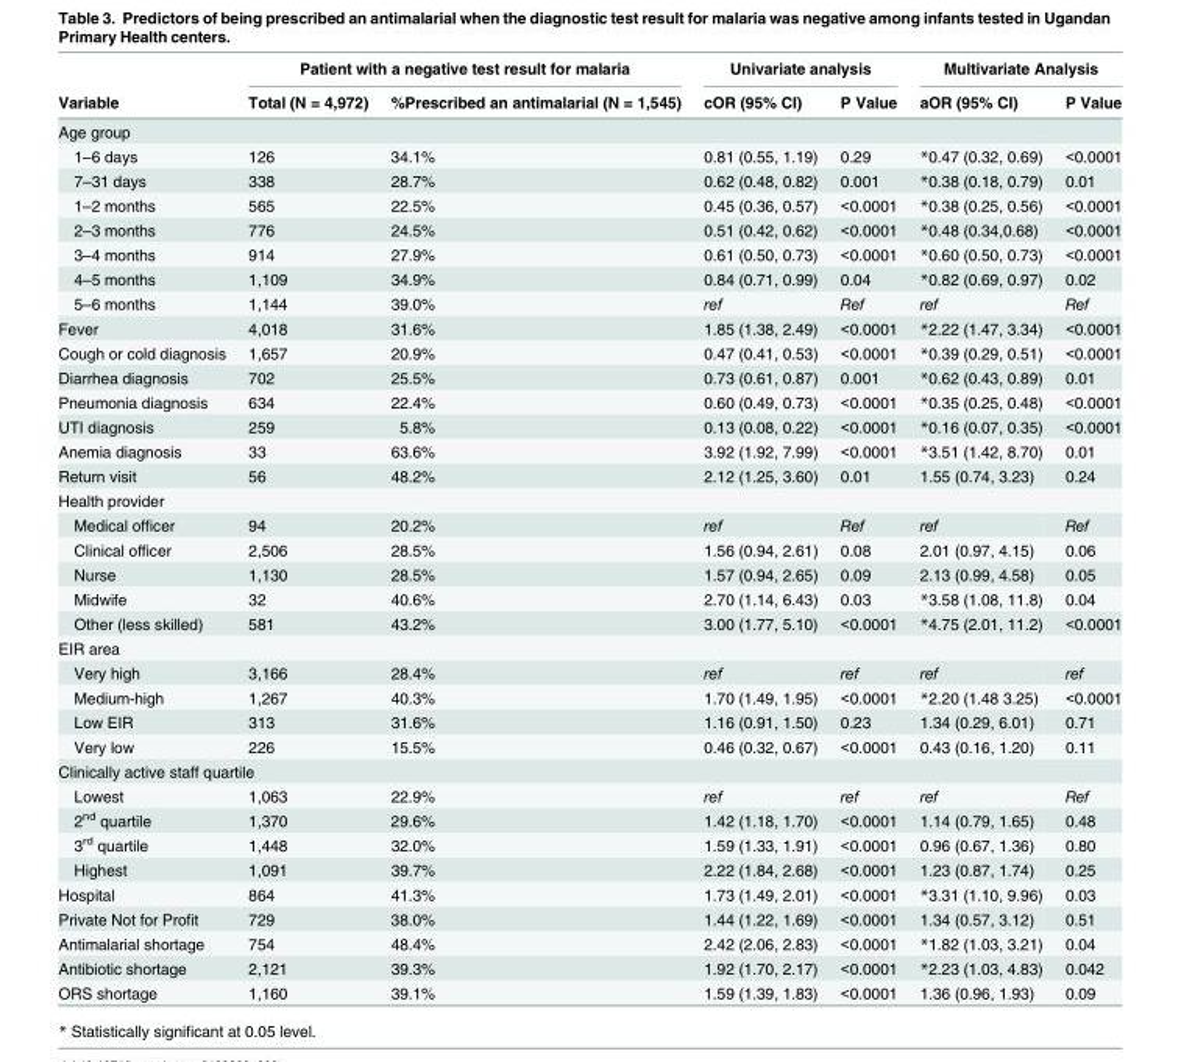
<table><thead><tr><td rowspan="2">Variable</td><td colspan="2">Patient with a negative test result for malaria</td><td colspan="2">Univariate analysis</td><td colspan="2">Multivariate Analysis</td></tr><tr><td>Total (N = 4,972)</td><td>%Prescribed an antimalarial (N = 1,545)</td><td>cOR (95% CI)</td><td>P Value</td><td>aOR (95% CI)</td><td>P Value</td></tr></thead><tbody><tr><td colspan="7">Age group</td></tr><tr><td>1–6 days</td><td>126</td><td>34.1%</td><td>0.81 (0.55, 1.19)</td><td>0.29</td><td>*0.47 (0.32, 0.69)</td><td>&lt;0.0001</td></tr><tr><td>7–31 days</td><td>338</td><td>28.7%</td><td>0.62 (0.48, 0.82)</td><td>0.001</td><td>*0.38 (0.18, 0.79)</td><td>0.01</td></tr><tr><td>1–2 months</td><td>565</td><td>22.5%</td><td>0.45 (0.36, 0.57)</td><td>&lt;0.0001</td><td>*0.38 (0.25, 0.56)</td><td>&lt;0.0001</td></tr><tr><td>2–3 months</td><td>776</td><td>24.5%</td><td>0.51 (0.42, 0.62)</td><td>&lt;0.0001</td><td>*0.48 (0.34,0.68)</td><td>&lt;0.0001</td></tr><tr><td>3–4 months</td><td>914</td><td>27.9%</td><td>0.61 (0.50, 0.73)</td><td>&lt;0.0001</td><td>*0.60 (0.50, 0.73)</td><td>&lt;0.0001</td></tr><tr><td>4–5 months</td><td>1,109</td><td>34.9%</td><td>0.84 (0.71, 0.99)</td><td>0.04</td><td>*0.82 (0.69, 0.97)</td><td>0.02</td></tr><tr><td>5–6 months</td><td>1,144</td><td>39.0%</td><td>ref</td><td>Ref</td><td>ref</td><td>Ref</td></tr><tr><td>Fever</td><td>4,018</td><td>31.6%</td><td>1.85 (1.38, 2.49)</td><td>&lt;0.0001</td><td>*2.22 (1.47, 3.34)</td><td>&lt;0.0001</td></tr><tr><td>Cough or cold diagnosis</td><td>1,657</td><td>20.9%</td><td>0.47 (0.41, 0.53)</td><td>&lt;0.0001</td><td>*0.39 (0.29, 0.51)</td><td>&lt;0.0001</td></tr><tr><td>Diarrhea diagnosis</td><td>702</td><td>25.5%</td><td>0.73 (0.61, 0.87)</td><td>0.001</td><td>*0.62 (0.43, 0.89)</td><td>0.01</td></tr><tr><td>Pneumonia diagnosis</td><td>634</td><td>22.4%</td><td>0.60 (0.49, 0.73)</td><td>&lt;0.0001</td><td>*0.35 (0.25, 0.48)</td><td>&lt;0.0001</td></tr><tr><td>UTI diagnosis</td><td>259</td><td>5.8%</td><td>0.13 (0.08, 0.22)</td><td>&lt;0.0001</td><td>*0.16 (0.07, 0.35)</td><td>&lt;0.0001</td></tr><tr><td>Anemia diagnosis</td><td>33</td><td>63.6%</td><td>3.92 (1.92, 7.99)</td><td>&lt;0.0001</td><td>*3.51 (1.42, 8.70)</td><td>0.01</td></tr><tr><td>Return visit</td><td>56</td><td>48.2%</td><td>2.12 (1.25, 3.60)</td><td>0.01</td><td>1.55 (0.74, 3.23)</td><td>0.24</td></tr><tr><td colspan="7">Health provider</td></tr><tr><td>Medical officer</td><td>94</td><td>20.2%</td><td>ref</td><td>Ref</td><td>ref</td><td>Ref</td></tr><tr><td>Clinical officer</td><td>2,506</td><td>28.5%</td><td>1.56 (0.94, 2.61)</td><td>0.08</td><td>2.01 (0.97, 4.15)</td><td>0.06</td></tr><tr><td>Nurse</td><td>1,130</td><td>28.5%</td><td>1.57 (0.94, 2.65)</td><td>0.09</td><td>2.13 (0.99, 4.58)</td><td>0.05</td></tr><tr><td>Midwife</td><td>32</td><td>40.6%</td><td>2.70 (1.14, 6.43)</td><td>0.03</td><td>*3.58 (1.08, 11.8)</td><td>0.04</td></tr><tr><td>Other (less skilled)</td><td>581</td><td>43.2%</td><td>3.00 (1.77, 5.10)</td><td>&lt;0.0001</td><td>*4.75 (2.01, 11.2)</td><td>&lt;0.0001</td></tr><tr><td colspan="7">EIR area</td></tr><tr><td>Very high</td><td>3,166</td><td>28.4%</td><td>ref</td><td>ref</td><td>ref</td><td>ref</td></tr><tr><td>Medium-high</td><td>1,267</td><td>40.3%</td><td>1.70 (1.49, 1.95)</td><td>&lt;0.0001</td><td>*2.20 (1.48 3.25)</td><td>&lt;0.0001</td></tr><tr><td>Low EIR</td><td>313</td><td>31.6%</td><td>1.16 (0.91, 1.50)</td><td>0.23</td><td>1.34 (0.29, 6.01)</td><td>0.71</td></tr><tr><td>Very low</td><td>226</td><td>15.5%</td><td>0.46 (0.32, 0.67)</td><td>&lt;0.0001</td><td>0.43 (0.16, 1.20)</td><td>0.11</td></tr><tr><td colspan="7">Clinically active staff quartile</td></tr><tr><td>Lowest</td><td>1,063</td><td>22.9%</td><td>ref</td><td>ref</td><td>ref</td><td>Ref</td></tr><tr><td>2<sup>nd</sup> quartile</td><td>1,370</td><td>29.6%</td><td>1.42 (1.18, 1.70)</td><td>&lt;0.0001</td><td>1.14 (0.79, 1.65)</td><td>0.48</td></tr><tr><td>3<sup>rd</sup> quartile</td><td>1,448</td><td>32.0%</td><td>1.59 (1.33, 1.91)</td><td>&lt;0.0001</td><td>0.96 (0.67, 1.36)</td><td>0.80</td></tr><tr><td>Highest</td><td>1,091</td><td>39.7%</td><td>2.22 (1.84, 2.68)</td><td>&lt;0.0001</td><td>1.23 (0.87, 1.74)</td><td>0.25</td></tr><tr><td>Hospital</td><td>864</td><td>41.3%</td><td>1.73 (1.49, 2.01)</td><td>&lt;0.0001</td><td>*3.31 (1.10, 9.96)</td><td>0.03</td></tr><tr><td>Private Not for Profit</td><td>729</td><td>38.0%</td><td>1.44 (1.22, 1.69)</td><td>&lt;0.0001</td><td>1.34 (0.57, 3.12)</td><td>0.51</td></tr><tr><td>Antimalarial shortage</td><td>754</td><td>48.4%</td><td>2.42 (2.06, 2.83)</td><td>&lt;0.0001</td><td>*1.82 (1.03, 3.21)</td><td>0.04</td></tr><tr><td>Antibiotic shortage</td><td>2,121</td><td>39.3%</td><td>1.92 (1.70, 2.17)</td><td>&lt;0.0001</td><td>*2.23 (1.03, 4.83)</td><td>0.042</td></tr><tr><td>ORS shortage</td><td>1,160</td><td>39.1%</td><td>1.59 (1.39, 1.83)</td><td>&lt;0.0001</td><td>1.36 (0.96, 1.93)</td><td>0.09</td></tr></tbody></table>